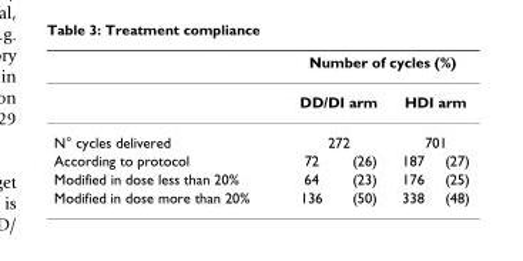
<table><thead><tr><td rowspan="4">N° cycles delivered According to protocol</td><td colspan="4">Number of cycles (%)</td></tr><tr><td rowspan="2" colspan="2">DD/DI arm 272</td><td rowspan="2" colspan="2">HDI arm 701</td></tr><tr></tr><tr><td>72</td><td>(26)</td><td>187</td><td>(27)</td></tr></thead><tbody><tr><td>Modified in dose less than 20%</td><td>64</td><td>(23)</td><td>176</td><td>(25)</td></tr><tr><td>Modified in dose more than 20%</td><td>136</td><td>(50)</td><td>338</td><td>(48)</td></tr></tbody></table>